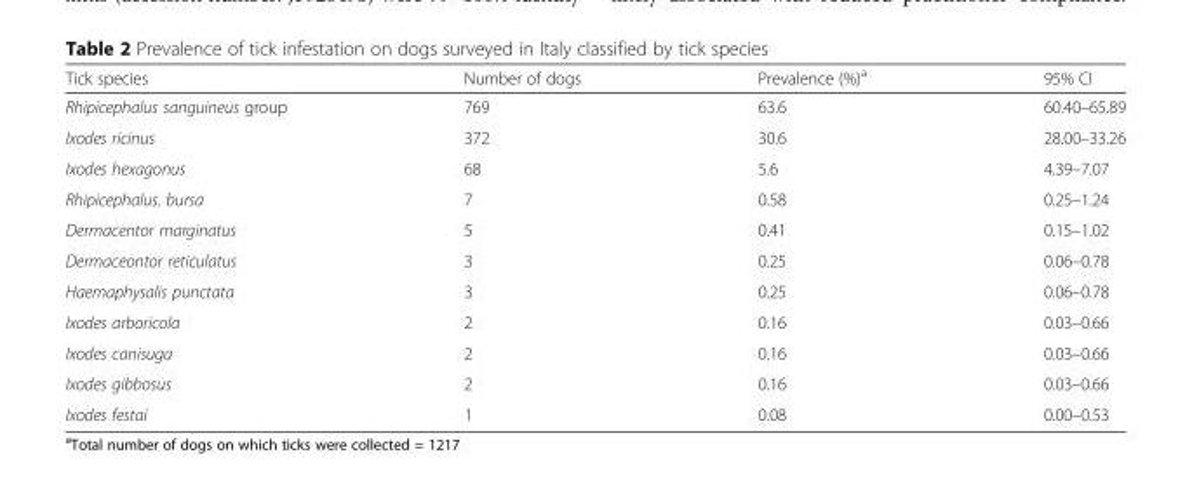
<table><thead><tr><td>Tick species</td><td>Number of dogs</td><td>Prevalence (%)<sup>a</sup></td><td>95% CI</td></tr></thead><tbody><tr><td>Rhipicephalus sanguineus group</td><td>769</td><td>63.6</td><td>60.40–65.89</td></tr><tr><td>Ixodes ricinus</td><td>372</td><td>30.6</td><td>28.00–33.26</td></tr><tr><td>Ixodes hexagonus</td><td>68</td><td>5.6</td><td>4.39–7.07</td></tr><tr><td>Rhipicephalus. bursa</td><td>7</td><td>0.58</td><td>0.25–1.24</td></tr><tr><td>Dermacentor marginatus</td><td>5</td><td>0.41</td><td>0.15–1.02</td></tr><tr><td>Dermaceontor reticulatus</td><td>3</td><td>0.25</td><td>0.06–0.78</td></tr><tr><td>Haemaphysalis punctata</td><td>3</td><td>0.25</td><td>0.06–0.78</td></tr><tr><td>Ixodes arboricola</td><td>2</td><td>0.16</td><td>0.03–0.66</td></tr><tr><td>Ixodes canisuga</td><td>2</td><td>0.16</td><td>0.03–0.66</td></tr><tr><td>Ixodes gibbosus</td><td>2</td><td>0.16</td><td>0.03–0.66</td></tr><tr><td>Ixodes festai</td><td>1</td><td>0.08</td><td>0.00–0.53</td></tr></tbody></table>